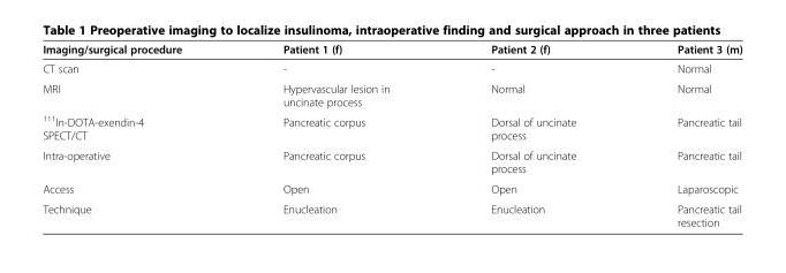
<table><thead><tr><td>Imaging/surgical procedure</td><td>Patient 1 (f)</td><td>Patient 2 (f)</td><td>Patient 3 (m)</td></tr></thead><tbody><tr><td>CT scan</td><td>-</td><td>-</td><td>Normal</td></tr><tr><td>MRI</td><td>Hypervascular lesion in uncinate process</td><td>Normal</td><td>Normal</td></tr><tr><td><sup>111</sup>In-DOTA-exendin-4 SPECT/CT</td><td>Pancreatic corpus</td><td>Dorsal of uncinate process</td><td>Pancreatic tail</td></tr><tr><td>Intra-operative</td><td>Pancreatic corpus</td><td>Dorsal of uncinate process</td><td>Pancreatic tail</td></tr><tr><td>Access</td><td>Open</td><td>Open</td><td>Laparoscopic</td></tr><tr><td>Technique</td><td>Enucleation</td><td>Enucleation</td><td>Pancreatic tail resection</td></tr></tbody></table>